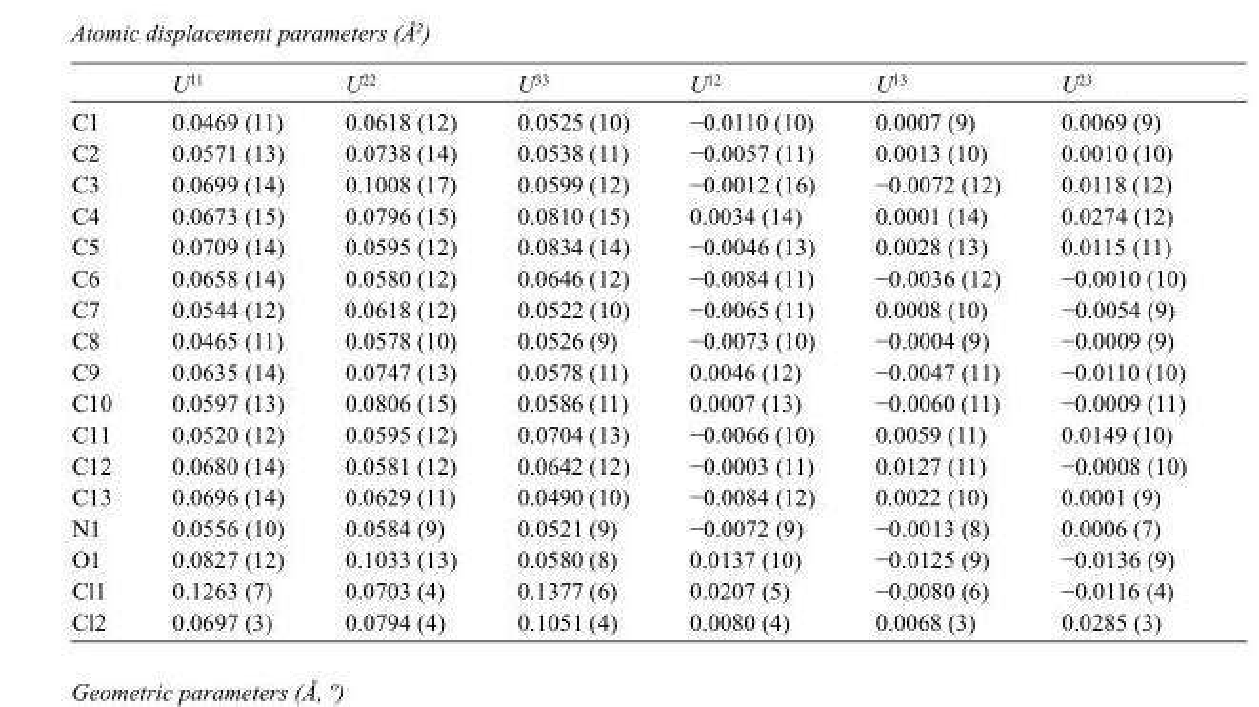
<table><thead><tr><td></td><td>U<sup>11</sup></td><td>U<sup>22</sup></td><td>U<sup>33</sup></td><td>U<sup>12</sup></td><td>U<sup>13</sup></td><td>U<sup>23</sup></td></tr></thead><tbody><tr><td>C1</td><td>0.0469 (11)</td><td>0.0618 (12)</td><td>0.0525 (10)</td><td>−0.0110 (10)</td><td>0.0007 (9)</td><td>0.0069 (9)</td></tr><tr><td>C2</td><td>0.0571 (13)</td><td>0.0738 (14)</td><td>0.0538 (11)</td><td>−0.0057 (11)</td><td>0.0013 (10)</td><td>0.0010 (10)</td></tr><tr><td>C3</td><td>0.0699 (14)</td><td>0.1008 (17)</td><td>0.0599 (12)</td><td>−0.0012 (16)</td><td>−0.0072 (12)</td><td>0.0118 (12)</td></tr><tr><td>C4</td><td>0.0673 (15)</td><td>0.0796 (15)</td><td>0.0810 (15)</td><td>0.0034 (14)</td><td>0.0001 (14)</td><td>0.0274 (12)</td></tr><tr><td>C5</td><td>0.0709 (14)</td><td>0.0595 (12)</td><td>0.0834 (14)</td><td>−0.0046 (13)</td><td>0.0028 (13)</td><td>0.0115 (11)</td></tr><tr><td>C6</td><td>0.0658 (14)</td><td>0.0580 (12)</td><td>0.0646 (12)</td><td>−0.0084 (11)</td><td>−0.0036 (12)</td><td>−0.0010 (10)</td></tr><tr><td>C7</td><td>0.0544 (12)</td><td>0.0618 (12)</td><td>0.0522 (10)</td><td>−0.0065 (11)</td><td>0.0008 (10)</td><td>−0.0054 (9)</td></tr><tr><td>C8</td><td>0.0465 (11)</td><td>0.0578 (10)</td><td>0.0526 (9)</td><td>−0.0073 (10)</td><td>−0.0004 (9)</td><td>−0.0009 (9)</td></tr><tr><td>C9</td><td>0.0635 (14)</td><td>0.0747 (13)</td><td>0.0578 (11)</td><td>0.0046 (12)</td><td>−0.0047 (11)</td><td>−0.0110 (10)</td></tr><tr><td>C10</td><td>0.0597 (13)</td><td>0.0806 (15)</td><td>0.0586 (11)</td><td>0.0007 (13)</td><td>−0.0060 (11)</td><td>−0.0009 (11)</td></tr><tr><td>C11</td><td>0.0520 (12)</td><td>0.0595 (12)</td><td>0.0704 (13)</td><td>−0.0066 (10)</td><td>0.0059 (11)</td><td>0.0149 (10)</td></tr><tr><td>C12</td><td>0.0680 (14)</td><td>0.0581 (12)</td><td>0.0642 (12)</td><td>−0.0003 (11)</td><td>0.0127 (11)</td><td>−0.0008 (10)</td></tr><tr><td>C13</td><td>0.0696 (14)</td><td>0.0629 (11)</td><td>0.0490 (10)</td><td>−0.0084 (12)</td><td>0.0022 (10)</td><td>0.0001 (9)</td></tr><tr><td>N1</td><td>0.0556 (10)</td><td>0.0584 (9)</td><td>0.0521 (9)</td><td>−0.0072 (9)</td><td>−0.0013 (8)</td><td>0.0006 (7)</td></tr><tr><td>O1</td><td>0.0827 (12)</td><td>0.1033 (13)</td><td>0.0580 (8)</td><td>0.0137 (10)</td><td>−0.0125 (9)</td><td>−0.0136 (9)</td></tr><tr><td>Cl1</td><td>0.1263 (7)</td><td>0.0703 (4)</td><td>0.1377 (6)</td><td>0.0207 (5)</td><td>−0.0080 (6)</td><td>−0.0116 (4)</td></tr><tr><td>Cl2</td><td>0.0697 (3)</td><td>0.0794 (4)</td><td>0.1051 (4)</td><td>0.0080 (4)</td><td>0.0068 (3)</td><td>0.0285 (3)</td></tr></tbody></table>